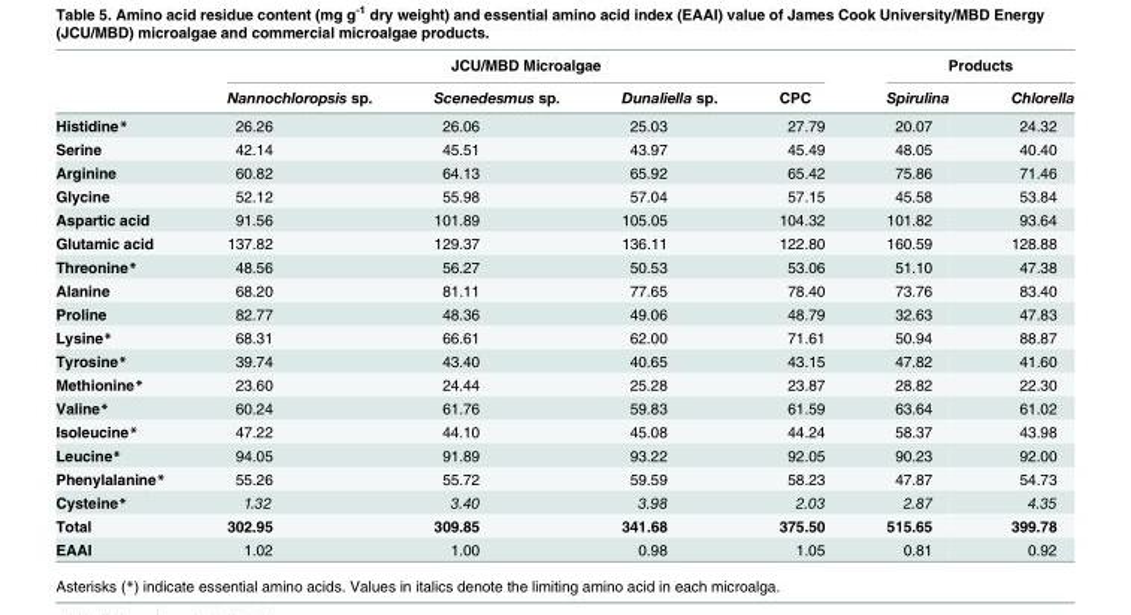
<table><thead><tr><td rowspan="2"></td><td colspan="4">JCU/MBD Microalgae</td><td colspan="2">Products</td></tr><tr><td>Nannochloropsis sp.</td><td>Scenedesmus sp.</td><td>Dunaliella sp.</td><td>CPC</td><td>Spirulina</td><td>Chlorella</td></tr></thead><tbody><tr><td>Histidine*</td><td>26.26</td><td>26.06</td><td>25.03</td><td>27.79</td><td>20.07</td><td>24.32</td></tr><tr><td>Serine</td><td>42.14</td><td>45.51</td><td>43.97</td><td>45.49</td><td>48.05</td><td>40.40</td></tr><tr><td>Arginine</td><td>60.82</td><td>64.13</td><td>65.92</td><td>65.42</td><td>75.86</td><td>71.46</td></tr><tr><td>Glycine</td><td>52.12</td><td>55.98</td><td>57.04</td><td>57.15</td><td>45.58</td><td>53.84</td></tr><tr><td>Aspartic acid</td><td>91.56</td><td>101.89</td><td>105.05</td><td>104.32</td><td>101.82</td><td>93.64</td></tr><tr><td>Glutamic acid</td><td>137.82</td><td>129.37</td><td>136.11</td><td>122.80</td><td>160.59</td><td>128.88</td></tr><tr><td>Threonine*</td><td>48.56</td><td>56.27</td><td>50.53</td><td>53.06</td><td>51.10</td><td>47.38</td></tr><tr><td>Alanine</td><td>68.20</td><td>81.11</td><td>77.65</td><td>78.40</td><td>73.76</td><td>83.40</td></tr><tr><td>Proline</td><td>82.77</td><td>48.36</td><td>49.06</td><td>48.79</td><td>32.63</td><td>47.83</td></tr><tr><td>Lysine*</td><td>68.31</td><td>66.61</td><td>62.00</td><td>71.61</td><td>50.94</td><td>88.87</td></tr><tr><td>Tyrosine*</td><td>39.74</td><td>43.40</td><td>40.65</td><td>43.15</td><td>47.82</td><td>41.60</td></tr><tr><td>Methionine*</td><td>23.60</td><td>24.44</td><td>25.28</td><td>23.87</td><td>28.82</td><td>22.30</td></tr><tr><td>Valine*</td><td>60.24</td><td>61.76</td><td>59.83</td><td>61.59</td><td>63.64</td><td>61.02</td></tr><tr><td>Isoleucine*</td><td>47.22</td><td>44.10</td><td>45.08</td><td>44.24</td><td>58.37</td><td>43.98</td></tr><tr><td>Leucine*</td><td>94.05</td><td>91.89</td><td>93.22</td><td>92.05</td><td>90.23</td><td>92.00</td></tr><tr><td>Phenylalanine*</td><td>55.26</td><td>55.72</td><td>59.59</td><td>58.23</td><td>47.87</td><td>54.73</td></tr><tr><td>Cysteine*</td><td>1.32</td><td>3.40</td><td>3.98</td><td>2.03</td><td>2.87</td><td>4.35</td></tr><tr><td>Total</td><td>302.95</td><td>309.85</td><td>341.68</td><td>375.50</td><td>515.65</td><td>399.78</td></tr><tr><td>EAAI</td><td>1.02</td><td>1.00</td><td>0.98</td><td>1.05</td><td>0.81</td><td>0.92</td></tr></tbody></table>